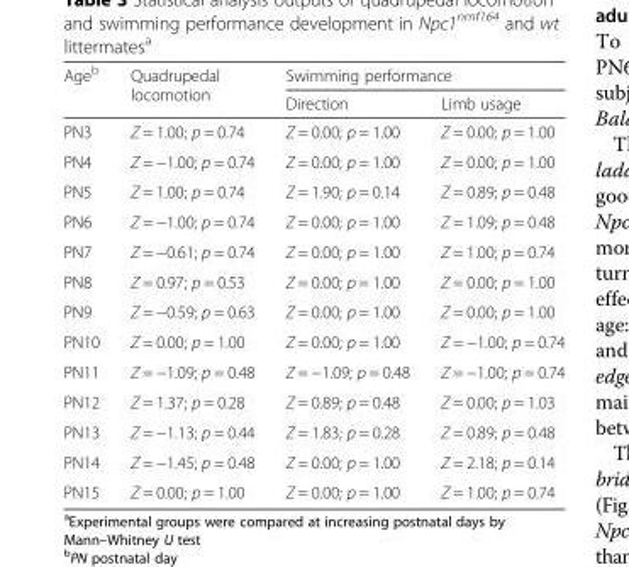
<table><thead><tr><td rowspan="2">Age<sup>b</sup></td><td rowspan="2">Quadrupedal locomotion</td><td colspan="2">Swimming performance</td></tr><tr><td>Direction</td><td>Limb usage</td></tr></thead><tbody><tr><td>PN3</td><td>Z = 1.00; p = 0.74</td><td>Z = 0.00; p = 1.00</td><td>Z = 0.00; p = 1.00</td></tr><tr><td>PN4</td><td>Z = −1.00; p = 0.74</td><td>Z = 0.00; p = 1.00</td><td>Z = 0.00; p = 1.00</td></tr><tr><td>PN5</td><td>Z = 1.00; p = 0.74</td><td>Z = 1.90; p = 0.14</td><td>Z = 0.89; p = 0.48</td></tr><tr><td>PN6</td><td>Z = −1.00; p = 0.74</td><td>Z = 0.00; p = 1.00</td><td>Z = 1.09; p = 0.48</td></tr><tr><td>PN7</td><td>Z = −0.61; p = 0.74</td><td>Z = 0.00; p = 1.00</td><td>Z = 1.00; p = 0.74</td></tr><tr><td>PN8</td><td>Z = 0.97; p = 0.53</td><td>Z = 0.00; p = 1.00</td><td>Z = 0.00; p = 1.00</td></tr><tr><td>PN9</td><td>Z = −0.59; p = 0.63</td><td>Z = 0.00; p = 1.00</td><td>Z = 0.00; p = 1.00</td></tr><tr><td>PN10</td><td>Z = 0.00; p = 1.00</td><td>Z = 0.00; p = 1.00</td><td>Z = −1.00; p = 0.74</td></tr><tr><td>PN11</td><td>Z = −1.09; p = 0.48</td><td>Z = −1.09; p = 0.48</td><td>Z = −1.00; p = 0.74</td></tr><tr><td>PN12</td><td>Z = 1.37; p = 0.28</td><td>Z = 0.89; p = 0.48</td><td>Z = 0.00; p = 1.03</td></tr><tr><td>PN13</td><td>Z = −1.13; p = 0.44</td><td>Z = 1.83; p = 0.28</td><td>Z = 0.89; p = 0.48</td></tr><tr><td>PN14</td><td>Z = −1.45; p = 0.48</td><td>Z = 0.00; p = 1.00</td><td>Z = 2.18; p = 0.14</td></tr><tr><td>PN15</td><td>Z = 0.00; p = 1.00</td><td>Z = 0.00; p = 1.00</td><td>Z = 1.00; p = 0.74</td></tr></tbody></table>